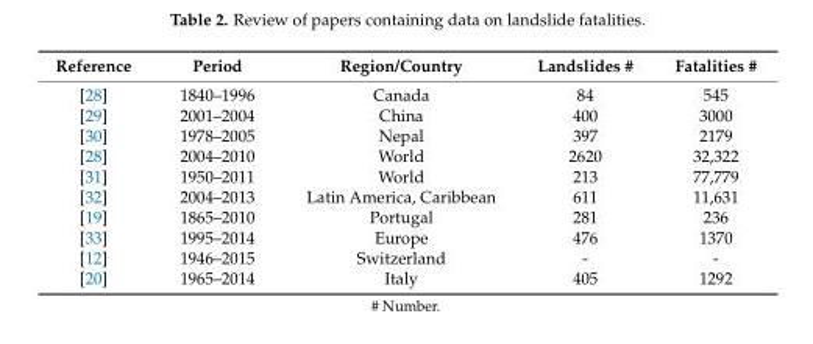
<table><thead><tr><td>Reference</td><td>Period</td><td>Region/Country</td><td>Landslides #</td><td>Fatalities #</td></tr></thead><tbody><tr><td>[28]</td><td>1840–1996</td><td>Canada</td><td>84</td><td>545</td></tr><tr><td>[29]</td><td>2001–2004</td><td>China</td><td>400</td><td>3000</td></tr><tr><td>[30]</td><td>1978–2005</td><td>Nepal</td><td>397</td><td>2179</td></tr><tr><td>[28]</td><td>2004–2010</td><td>World</td><td>2620</td><td>32,322</td></tr><tr><td>[31]</td><td>1950–2011</td><td>World</td><td>213</td><td>77,779</td></tr><tr><td>[32]</td><td>2004–2013</td><td>Latin America, Caribbean</td><td>611</td><td>11,631</td></tr><tr><td>[19]</td><td>1865–2010</td><td>Portugal</td><td>281</td><td>236</td></tr><tr><td>[33]</td><td>1995–2014</td><td>Europe</td><td>476</td><td>1370</td></tr><tr><td>[12]</td><td>1946–2015</td><td>Switzerland</td><td>-</td><td>-</td></tr><tr><td>[20]</td><td>1965–2014</td><td>Italy</td><td>405</td><td>1292</td></tr></tbody></table>